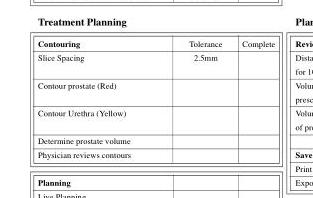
<table><thead><tr><td>Contouring</td><td>Tolerance</td><td>Complete</td></tr></thead><tbody><tr><td>Slice Spacing</td><td>2.5mm</td><td></td></tr><tr><td colspan="3">Contour prostate (Red)</td></tr><tr><td colspan="3">Contour Urethra (Yellow)</td></tr><tr><td colspan="3">Determine prostate volume</td></tr><tr><td>Physician reviews contours</td><td></td><td></td></tr></tbody></table>